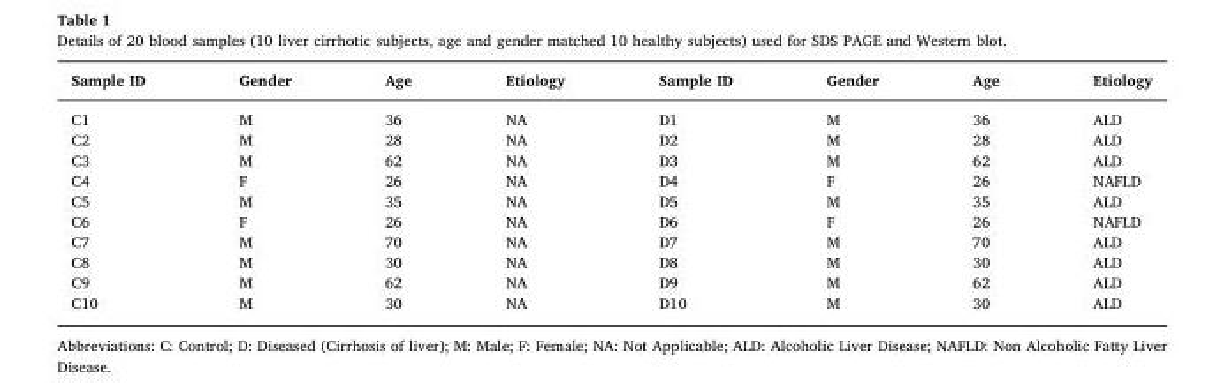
<table><thead><tr><td>Sample ID</td><td>Gender</td><td>Age</td><td>Etiology</td><td>Sample ID</td><td>Gender</td><td>Age</td><td>Etiology</td></tr></thead><tbody><tr><td>C1</td><td>M</td><td>36</td><td>NA</td><td>D1</td><td>M</td><td>36</td><td>ALD</td></tr><tr><td>C2</td><td>M</td><td>28</td><td>NA</td><td>D2</td><td>M</td><td>28</td><td>ALD</td></tr><tr><td>C3</td><td>M</td><td>62</td><td>NA</td><td>D3</td><td>M</td><td>62</td><td>ALD</td></tr><tr><td>C4</td><td>F</td><td>26</td><td>NA</td><td>D4</td><td>F</td><td>26</td><td>NAFLD</td></tr><tr><td>C5</td><td>M</td><td>35</td><td>NA</td><td>D5</td><td>M</td><td>35</td><td>ALD</td></tr><tr><td>C6</td><td>F</td><td>26</td><td>NA</td><td>D6</td><td>F</td><td>26</td><td>NAFLD</td></tr><tr><td>C7</td><td>M</td><td>70</td><td>NA</td><td>D7</td><td>M</td><td>70</td><td>ALD</td></tr><tr><td>C8</td><td>M</td><td>30</td><td>NA</td><td>D8</td><td>M</td><td>30</td><td>ALD</td></tr><tr><td>C9</td><td>M</td><td>62</td><td>NA</td><td>D9</td><td>M</td><td>62</td><td>ALD</td></tr><tr><td>C10</td><td>M</td><td>30</td><td>NA</td><td>D10</td><td>M</td><td>30</td><td>ALD</td></tr></tbody></table>